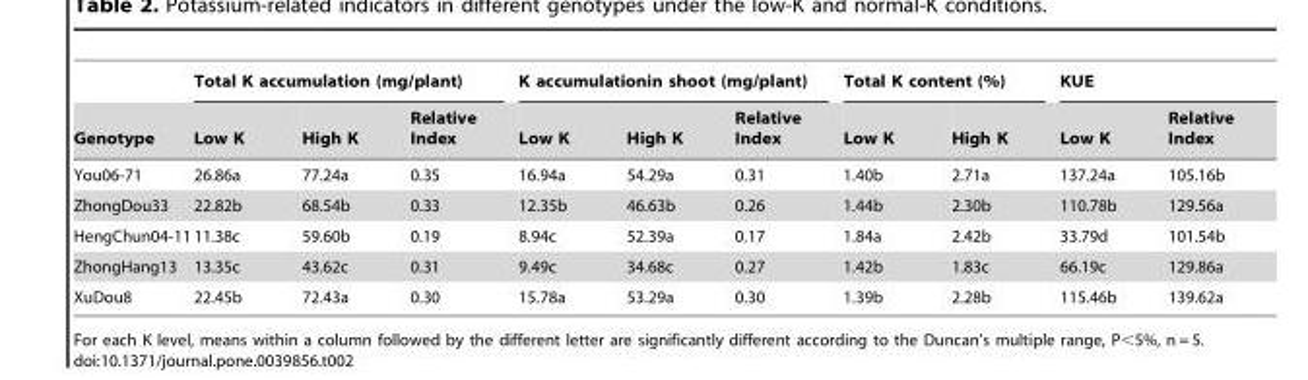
<table><thead><tr><td rowspan="2">Genotype</td><td colspan="3">Total K accumulation (mg/plant)</td><td colspan="3">K accumulationin shoot (mg/plant)</td><td colspan="2">Total K content (%)</td><td colspan="2">KUE</td></tr><tr><td>Low K</td><td>High K</td><td>Relative Index</td><td>Low K</td><td>High K</td><td>Relative Index</td><td>Low K</td><td>High K</td><td>Low K</td><td>Relative Index</td></tr></thead><tbody><tr><td>You06-71</td><td>26.86a</td><td>77.24a</td><td>0.35</td><td>16.94a</td><td>54.29a</td><td>0.31</td><td>1.40b</td><td>2.71a</td><td>137.24a</td><td>105.16b</td></tr><tr><td>ZhongDou33</td><td>22.82b</td><td>68.54b</td><td>0.33</td><td>12.35b</td><td>46.63b</td><td>0.26</td><td>1.44b</td><td>2.30b</td><td>110.78b</td><td>129.56a</td></tr><tr><td>HengChun04-11</td><td>11.38c</td><td>59.60b</td><td>0.19</td><td>8.94c</td><td>52.39a</td><td>0.17</td><td>1.84a</td><td>2.42b</td><td>33.79d</td><td>101.54b</td></tr><tr><td>ZhongHang13</td><td>13.35c</td><td>43.62c</td><td>0.31</td><td>9.49c</td><td>34.68c</td><td>0.27</td><td>1.42b</td><td>1.83c</td><td>66.19c</td><td>129.86a</td></tr><tr><td>XuDou8</td><td>22.45b</td><td>72.43a</td><td>0.30</td><td>15.78a</td><td>53.29a</td><td>0.30</td><td>1.39b</td><td>2.28b</td><td>115.46b</td><td>139.62a</td></tr></tbody></table>